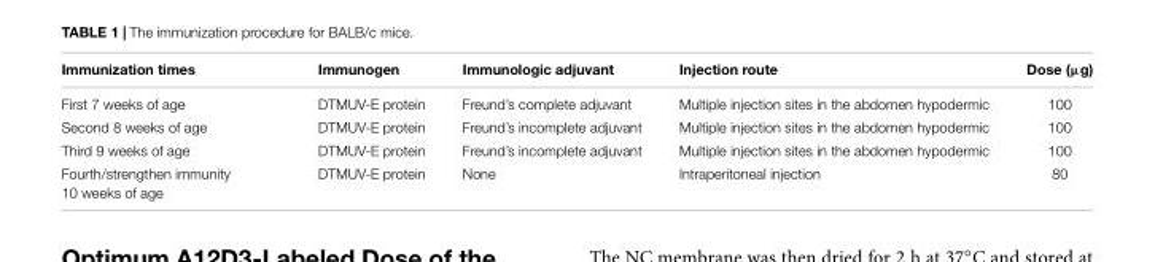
<table><thead><tr><td>Immunization times</td><td>Immunogen</td><td>Immunologic adjuvant</td><td>Injection route</td><td>Dose (µg)</td></tr></thead><tbody><tr><td>First 7 weeks of age</td><td>DTMUV-E protein</td><td>Freund’s complete adjuvant</td><td>Multiple injection sites in the abdomen hypodermic</td><td>100</td></tr><tr><td>Second 8 weeks of age</td><td>DTMUV-E protein</td><td>Freund’s incomplete adjuvant</td><td>Multiple injection sites in the abdomen hypodermic</td><td>100</td></tr><tr><td>Third 9 weeks of age</td><td>DTMUV-E protein</td><td>Freund’s incomplete adjuvant</td><td>Multiple injection sites in the abdomen hypodermic</td><td>100</td></tr><tr><td>Fourth/strengthen immunity 10 weeks of age</td><td>DTMUV-E protein</td><td>None</td><td>Intraperitoneal injection</td><td>80</td></tr></tbody></table>